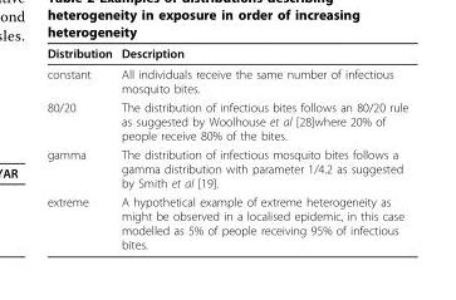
<table><thead><tr><td>Distribution</td><td>Description</td></tr></thead><tbody><tr><td>constant</td><td>All individuals receive the same number of infectious mosquito bites.</td></tr><tr><td>80/20</td><td>The distribution of infectious bites follows an 80/20 rule as suggested by Woolhouse et al [28]where 20% of people receive 80% of the bites.</td></tr><tr><td>gamma</td><td>The distribution of infectious mosquito bites follows a gamma distribution with parameter 1/4.2 as suggested by Smith et al [19].</td></tr><tr><td>extreme</td><td>A hypothetical example of extreme heterogeneity as might be observed in a localised epidemic, in this case modelled as 5% of people receiving 95% of infectious bites.</td></tr></tbody></table>